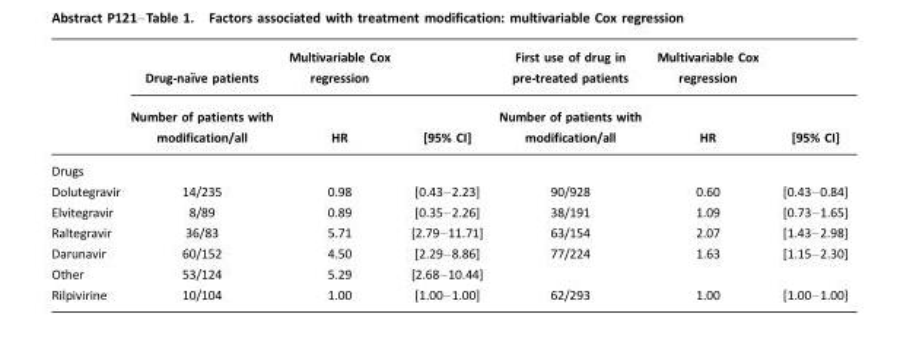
<table><thead><tr><td rowspan="2"></td><td rowspan="2">Drug-naı¨ve patients Number of patients with modification/all</td><td rowspan="2">Multivariable Cox regression HR</td><td rowspan="2">[95% CI]</td><td rowspan="2">First use of drug in pre-treated patients Number of patients with modification/all</td><td rowspan="2">Multivariable Cox regression HR</td><td rowspan="2">[95% CI]</td></tr><tr></tr></thead><tbody><tr><td colspan="7">Drugs</td></tr><tr><td>Dolutegravir</td><td>14/235</td><td>0.98</td><td>[0.43–2.23]</td><td>90/928</td><td>0.60</td><td>[0.43–0.84]</td></tr><tr><td>Elvitegravir</td><td>8/89</td><td>0.89</td><td>[0.35–2.26]</td><td>38/191</td><td>1.09</td><td>[0.73–1.65]</td></tr><tr><td>Raltegravir</td><td>36/83</td><td>5.71</td><td>[2.79–11.71]</td><td>63/154</td><td>2.07</td><td>[1.43–2.98]</td></tr><tr><td>Darunavir</td><td>60/152</td><td>4.50</td><td>[2.29–8.86]</td><td>77/224</td><td>1.63</td><td>[1.15–2.30]</td></tr><tr><td>Other</td><td>53/124</td><td>5.29</td><td>[2.68–10.44]</td><td></td><td></td><td></td></tr><tr><td>Rilpivirine</td><td>10/104</td><td>1.00</td><td>[1.00–1.00]</td><td>62/293</td><td>1.00</td><td>[1.00–1.00]</td></tr></tbody></table>